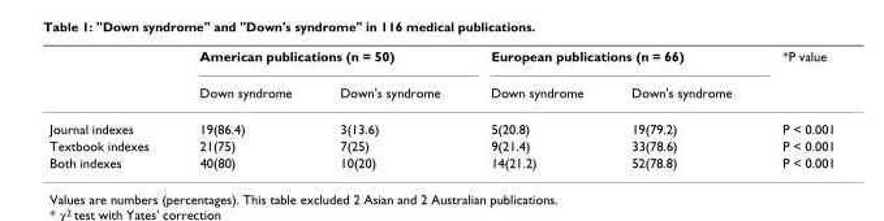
<table><thead><tr><td rowspan="2"></td><td colspan="2">American publications (n = 50)</td><td colspan="2">European publications (n = 66)</td><td rowspan="2">*P value</td></tr><tr><td>Down syndrome</td><td>Down&#x27;s syndrome</td><td>Down syndrome</td><td>Down&#x27;s syndrome</td></tr></thead><tbody><tr><td>Journal indexes</td><td>19(86.4)</td><td>3(13.6)</td><td>5(20.8)</td><td>19(79.2)</td><td>P &lt; 0.001</td></tr><tr><td>Textbook indexes</td><td>21(75)</td><td>7(25)</td><td>9(21.4)</td><td>33(78.6)</td><td>P &lt; 0.001</td></tr><tr><td>Both indexes</td><td>40(80)</td><td>10(20)</td><td>14(21.2)</td><td>52(78.8)</td><td>P &lt; 0.001</td></tr></tbody></table>